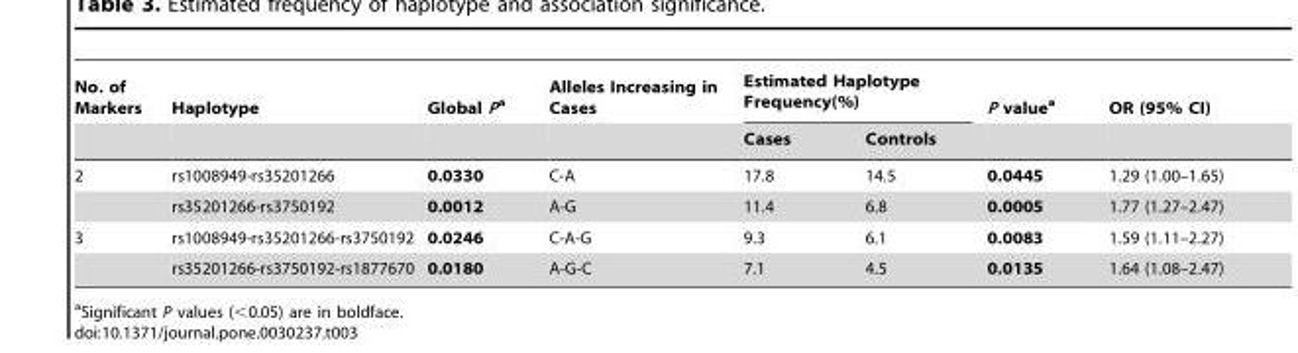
<table><thead><tr><td rowspan="2">No. of Markers</td><td rowspan="2">Haplotype</td><td rowspan="2">Global Pa</td><td rowspan="2">Alleles Increasing in Cases</td><td colspan="2">Estimated Haplotype Frequency(%)</td><td rowspan="2">P value<sup>a</sup></td><td rowspan="2">OR (95% CI)</td></tr><tr><td>Cases</td><td>Controls</td></tr></thead><tbody><tr><td rowspan="2">2</td><td>rs1008949-rs35201266</td><td>0.0330</td><td>C-A</td><td>17.8</td><td>14.5</td><td>0.0445</td><td>1.29 (1.00–1.65)</td></tr><tr><td>rs35201266-rs3750192</td><td>0.0012</td><td>A-G</td><td>11.4</td><td>6.8</td><td>0.0005</td><td>1.77 (1.27–2.47)</td></tr><tr><td rowspan="2">3</td><td>rs1008949-rs35201266-rs3750192</td><td>0.0246</td><td>C-A-G</td><td>9.3</td><td>6.1</td><td>0.0083</td><td>1.59 (1.11–2.27)</td></tr><tr><td>rs35201266-rs3750192-rs1877670</td><td>0.0180</td><td>A-G-C</td><td>7.1</td><td>4.5</td><td>0.0135</td><td>1.64 (1.08–2.47)</td></tr></tbody></table>